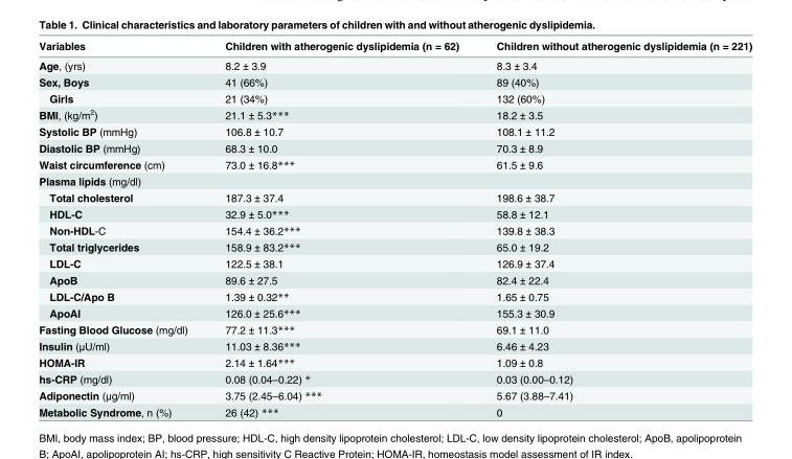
<table><thead><tr><td>Variables</td><td>Children with atherogenic dyslipidemia (n = 62)</td><td>Children without atherogenic dyslipidemia (n = 221)</td></tr></thead><tbody><tr><td>Age, (yrs)</td><td>8.2 ± 3.9</td><td>8.3 ± 3.4</td></tr><tr><td>Sex, Boys</td><td>41 (66%)</td><td>89 (40%)</td></tr><tr><td>Girls</td><td>21 (34%)</td><td>132 (60%)</td></tr><tr><td>BMI, (kg/m<sup>2</sup>)</td><td>21.1 ± 5.3***</td><td>18.2 ± 3.5</td></tr><tr><td>Systolic BP (mmHg)</td><td>106.8 ± 10.7</td><td>108.1 ± 11.2</td></tr><tr><td>Diastolic BP (mmHg)</td><td>68.3 ± 10.0</td><td>70.3 ± 8.9</td></tr><tr><td>Waist circumference (cm)</td><td>73.0 ± 16.8***</td><td>61.5 ± 9.6</td></tr><tr><td colspan="3">Plasma lipids (mg/dl)</td></tr><tr><td>Total cholesterol</td><td>187.3 ± 37.4</td><td>198.6 ± 38.7</td></tr><tr><td>HDL-C</td><td>32.9 ± 5.0***</td><td>58.8 ± 12.1</td></tr><tr><td>Non-HDL-C</td><td>154.4 ± 36.2***</td><td>139.8 ± 38.3</td></tr><tr><td>Total triglycerides</td><td>158.9 ± 83.2***</td><td>65.0 ± 19.2</td></tr><tr><td>LDL-C</td><td>122.5 ± 38.1</td><td>126.9 ± 37.4</td></tr><tr><td>ApoB</td><td>89.6 ± 27.5</td><td>82.4 ± 22.4</td></tr><tr><td>LDL-C/Apo B</td><td>1.39 ± 0.32**</td><td>1.65 ± 0.75</td></tr><tr><td>ApoAI</td><td>126.0 ± 25.6***</td><td>155.3 ± 30.9</td></tr><tr><td>Fasting Blood Glucose (mg/dl)</td><td>77.2 ± 11.3***</td><td>69.1 ± 11.0</td></tr><tr><td>Insulin (μU/ml)</td><td>11.03 ± 8.36***</td><td>6.46 ± 4.23</td></tr><tr><td>HOMA-IR</td><td>2.14 ± 1.64***</td><td>1.09 ± 0.8</td></tr><tr><td>hs-CRP (mg/dl)</td><td>0.08 (0.04–0.22) *</td><td>0.03 (0.00–0.12)</td></tr><tr><td>Adiponectin (μg/ml)</td><td>3.75 (2.45–6.04) ***</td><td>5.67 (3.88–7.41)</td></tr><tr><td>Metabolic Syndrome, n (%)</td><td>26 (42) ***</td><td>0</td></tr></tbody></table>